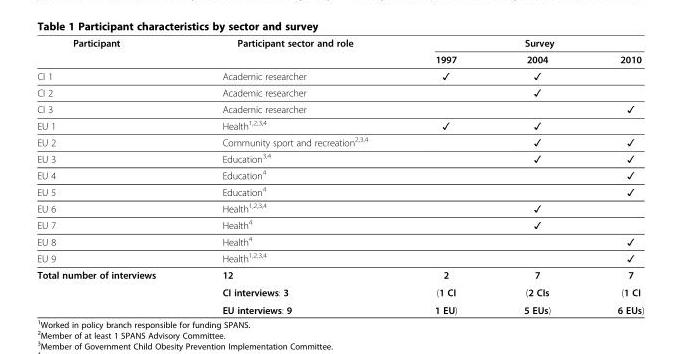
<table><thead><tr><td rowspan="2">Participant</td><td rowspan="2">Participant sector and role</td><td colspan="3">Survey</td></tr><tr><td>1997</td><td>2004</td><td>2010</td></tr></thead><tbody><tr><td>CI 1</td><td>Academic researcher</td><td>✓</td><td>✓</td><td></td></tr><tr><td>CI 2</td><td>Academic researcher</td><td></td><td>✓</td><td></td></tr><tr><td>CI 3</td><td>Academic researcher</td><td></td><td></td><td>✓</td></tr><tr><td>EU 1</td><td>Health<sup>1,2,3,4</sup></td><td>✓</td><td>✓</td><td></td></tr><tr><td>EU 2</td><td>Community sport and recreation<sup>2,3,4</sup></td><td></td><td>✓</td><td>✓</td></tr><tr><td>EU 3</td><td>Education<sup>3,4</sup></td><td></td><td>✓</td><td>✓</td></tr><tr><td>EU 4</td><td>Education<sup>4</sup></td><td></td><td></td><td>✓</td></tr><tr><td>EU 5</td><td>Education<sup>4</sup></td><td></td><td></td><td>✓</td></tr><tr><td>EU 6</td><td>Health<sup>1,2,3,4</sup></td><td></td><td>✓</td><td></td></tr><tr><td>EU 7</td><td>Health<sup>4</sup></td><td></td><td>✓</td><td></td></tr><tr><td>EU 8</td><td>Health<sup>4</sup></td><td></td><td></td><td>✓</td></tr><tr><td>EU 9</td><td>Health<sup>1,2,3,4</sup></td><td></td><td></td><td>✓</td></tr><tr><td rowspan="3">Total number of interviews</td><td>12</td><td>2</td><td>7</td><td>7</td></tr><tr><td>CI interviews: 3</td><td>(1 CI</td><td>(2 CIs</td><td>(1 CI</td></tr><tr><td>EU interviews: 9</td><td>1 EU)</td><td>5 EUs)</td><td>6 EUs)</td></tr></tbody></table>